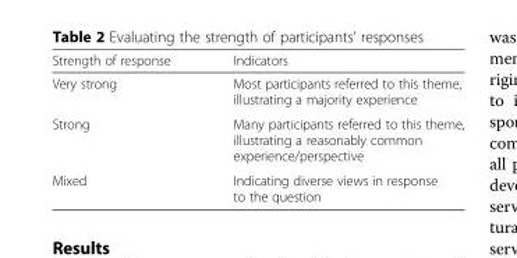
<table><thead><tr><td>Strength of response</td><td>Indicators</td></tr></thead><tbody><tr><td>Very strong</td><td>Most participants referred to this theme, illustrating a majority experience</td></tr><tr><td>Strong</td><td>Many participants referred to this theme, illustrating a reasonably common experience/perspective</td></tr><tr><td>Mixed</td><td>Indicating diverse views in response to the question</td></tr></tbody></table>